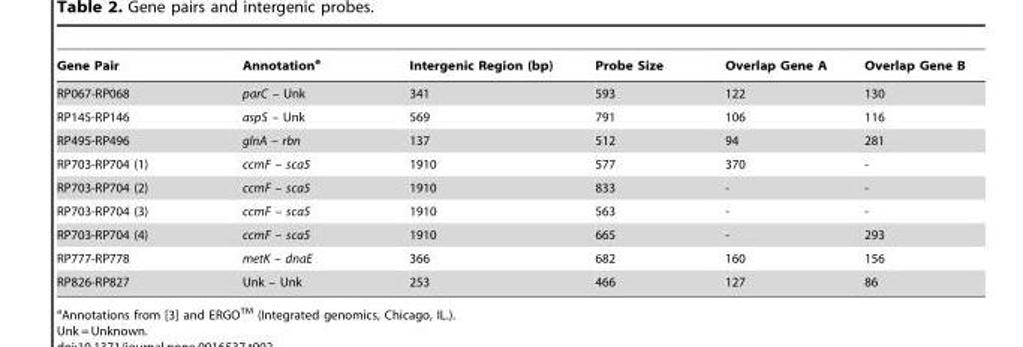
<table><thead><tr><td>Gene Pair</td><td>Annotation<sup>a</sup></td><td>Intergenic Region (bp)</td><td>Probe Size</td><td>Overlap Gene A</td><td>Overlap Gene B</td></tr></thead><tbody><tr><td>RP067-RP068</td><td>parC – Unk</td><td>341</td><td>593</td><td>122</td><td>130</td></tr><tr><td>RP145-RP146</td><td>aspS – Unk</td><td>569</td><td>791</td><td>106</td><td>116</td></tr><tr><td>RP495-RP496</td><td>glnA – rbn</td><td>137</td><td>512</td><td>94</td><td>281</td></tr><tr><td>RP703-RP704 (1)</td><td>ccmF – sca5</td><td>1910</td><td>577</td><td>370</td><td>-</td></tr><tr><td>RP703-RP704 (2)</td><td>ccmF – sca5</td><td>1910</td><td>833</td><td>-</td><td>-</td></tr><tr><td>RP703-RP704 (3)</td><td>ccmF – sca5</td><td>1910</td><td>563</td><td>-</td><td>-</td></tr><tr><td>RP703-RP704 (4)</td><td>ccmF – sca5</td><td>1910</td><td>665</td><td>-</td><td>293</td></tr><tr><td>RP777-RP778</td><td>metK – dnaE</td><td>366</td><td>682</td><td>160</td><td>156</td></tr><tr><td>RP826-RP827</td><td>Unk – Unk</td><td>253</td><td>466</td><td>127</td><td>86</td></tr></tbody></table>